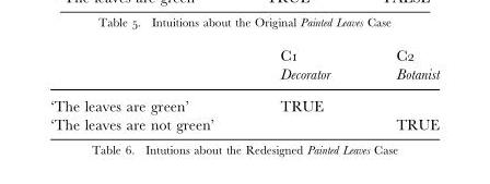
<table><thead><tr><td rowspan="2"></td><td rowspan="2">C1 Decorator</td><td rowspan="2">C2 Botanist</td></tr><tr></tr></thead><tbody><tr><td>‘The leaves are green’</td><td>TRUE</td><td></td></tr><tr><td>‘The leaves are not green’</td><td></td><td>TRUE</td></tr></tbody></table>